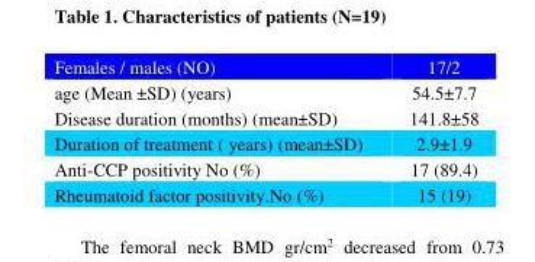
<table><thead><tr><td>Females / males (NO)</td><td>17/2</td></tr></thead><tbody><tr><td>age (Mean ±SD) (years)</td><td>54.5±7.7</td></tr><tr><td>Disease duration (months) (mean±SD)</td><td>141.8±58</td></tr><tr><td>Duration of treatment ( years) (mean±SD)</td><td>2.9±1.9</td></tr><tr><td>Anti-CCP positivity No (%)</td><td>17 (89.4)</td></tr><tr><td>Rheumatoid factor positivity.No (%)</td><td>15 (19)</td></tr></tbody></table>